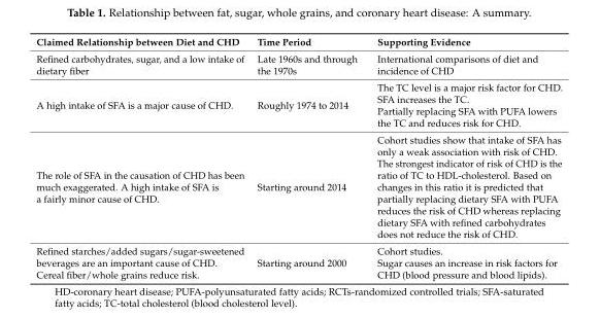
<table><thead><tr><td>Claimed Relationship between Diet and CHD</td><td>Time Period</td><td>Supporting Evidence</td></tr></thead><tbody><tr><td>Refined carbohydrates, sugar, and a low intake of dietary fiber</td><td>Late 1960s and through the 1970s</td><td>International comparisons of diet and incidence of CHD</td></tr><tr><td>A high intake of SFA is a major cause of CHD.</td><td>Roughly 1974 to 2014</td><td>The TC level is a major risk factor for CHD. SFA increases the TC. Partially replacing SFA with PUFA lowers the TC and reduces risk for CHD.</td></tr><tr><td>The role of SFA in the causation of CHD has been much exaggerated. A high intake of SFA is a fairly minor cause of CHD.</td><td>Starting around 2014</td><td>Cohort studies show that intake of SFA has only a weak association with risk of CHD. The strongest indicator of risk of CHD is the ratio of TC to HDL-cholesterol. Based on changes in this ratio it is predicted that partially replacing dietary SFA with PUFA reduces the risk of CHD whereas replacing dietary SFA with refined carbohydrates does not reduce the risk of CHD.</td></tr><tr><td>Refined starches/added sugars/sugar-sweetened beverages are an important cause of CHD. Cereal fiber/whole grains reduce risk.</td><td>Starting around 2000</td><td>Cohort studies. Sugar causes an increase in risk factors for CHD (blood pressure and blood lipids).</td></tr></tbody></table>